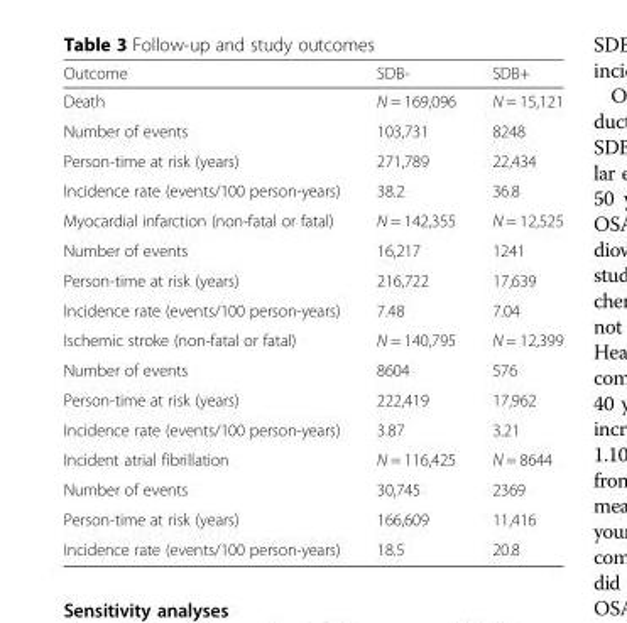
<table><thead><tr><td>Outcome</td><td>SDB-</td><td>SDB+</td></tr></thead><tbody><tr><td>Death</td><td>N = 169,096</td><td>N = 15,121</td></tr><tr><td>Number of events</td><td>103,731</td><td>8248</td></tr><tr><td>Person-time at risk (years)</td><td>271,789</td><td>22,434</td></tr><tr><td>Incidence rate (events/100 person-years)</td><td>38.2</td><td>36.8</td></tr><tr><td>Myocardial infarction (non-fatal or fatal)</td><td>N = 142,355</td><td>N = 12,525</td></tr><tr><td>Number of events</td><td>16,217</td><td>1241</td></tr><tr><td>Person-time at risk (years)</td><td>216,722</td><td>17,639</td></tr><tr><td>Incidence rate (events/100 person-years)</td><td>7.48</td><td>7.04</td></tr><tr><td>Ischemic stroke (non-fatal or fatal)</td><td>N = 140,795</td><td>N = 12,399</td></tr><tr><td>Number of events</td><td>8604</td><td>576</td></tr><tr><td>Person-time at risk (years)</td><td>222,419</td><td>17,962</td></tr><tr><td>Incidence rate (events/100 person-years)</td><td>3.87</td><td>3.21</td></tr><tr><td>Incident atrial fibrillation</td><td>N = 116,425</td><td>N = 8644</td></tr><tr><td>Number of events</td><td>30,745</td><td>2369</td></tr><tr><td>Person-time at risk (years)</td><td>166,609</td><td>11,416</td></tr><tr><td>Incidence rate (events/100 person-years)</td><td>18.5</td><td>20.8</td></tr></tbody></table>